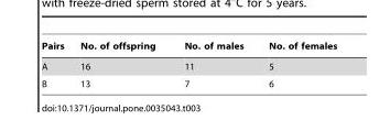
<table><thead><tr><td>Pairs</td><td>No. of offspring</td><td>No. of males</td><td>No. of females</td></tr></thead><tbody><tr><td>A</td><td>16</td><td>11</td><td>5</td></tr><tr><td>B</td><td>13</td><td>7</td><td>6</td></tr></tbody></table>